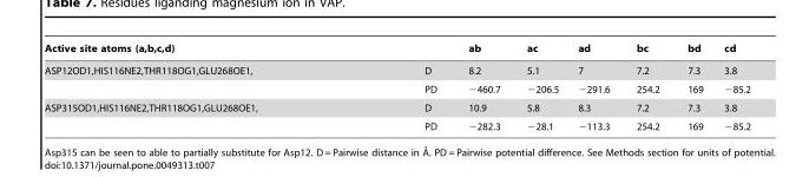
<table><thead><tr><td>Active site atoms (a,b,c,d)</td><td></td><td>ab</td><td>ac</td><td>ad</td><td>bc</td><td>bd</td><td>cd</td></tr></thead><tbody><tr><td rowspan="2">ASP12OD1,HIS116NE2,THR118OG1,GLU268OE1,</td><td>D</td><td>8.2</td><td>5.1</td><td>7</td><td>7.2</td><td>7.3</td><td>3.8</td></tr><tr><td>PD</td><td>−460.7</td><td>−206.5</td><td>−291.6</td><td>254.2</td><td>169</td><td>−85.2</td></tr><tr><td rowspan="2">ASP315OD1,HIS116NE2,THR118OG1,GLU268OE1,</td><td>D</td><td>10.9</td><td>5.8</td><td>8.3</td><td>7.2</td><td>7.3</td><td>3.8</td></tr><tr><td>PD</td><td>−282.3</td><td>−28.1</td><td>−113.3</td><td>254.2</td><td>169</td><td>−85.2</td></tr></tbody></table>